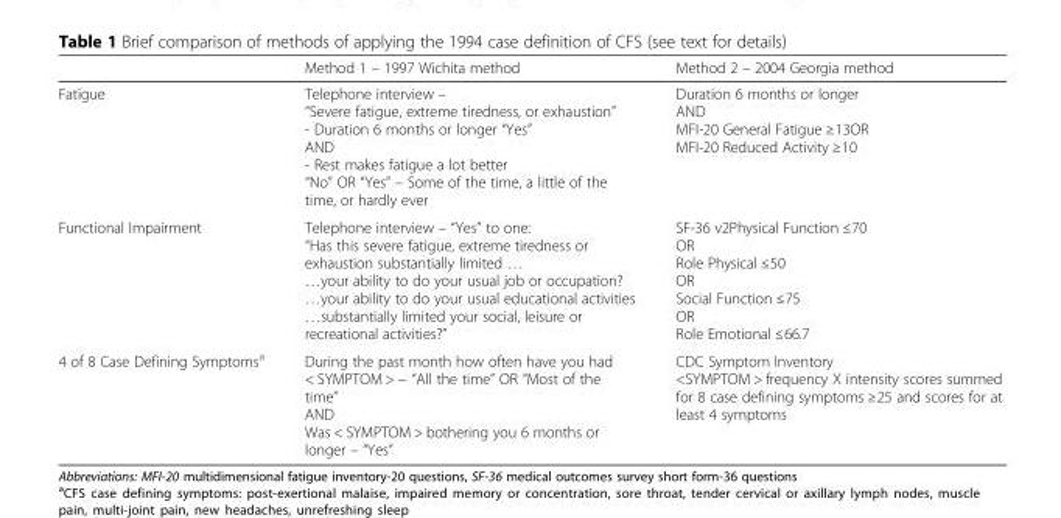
<table><thead><tr><td></td><td>Method 1 – 1997 Wichita method</td><td>Method 2 – 2004 Georgia method</td></tr></thead><tbody><tr><td>Fatigue</td><td>Telephone interview – “Severe fatigue, extreme tiredness, or exhaustion” - Duration 6 months or longer “Yes” AND - Rest makes fatigue a lot better “No” OR “Yes” – Some of the time, a little of the time, or hardly ever</td><td>Duration 6 months or longer AND MFI-20 General Fatigue ≥13OR MFI-20 Reduced Activity ≥10</td></tr><tr><td>Functional Impairment</td><td>Telephone interview – “Yes” to one: “Has this severe fatigue, extreme tiredness or exhaustion substantially limited … …your ability to do your usual job or occupation? …your ability to do your usual educational activities …substantially limited your social, leisure or recreational activities?”</td><td>SF-36 v2Physical Function ≤70 OR Role Physical ≤50 OR Social Function ≤75 OR Role Emotional ≤66.7</td></tr><tr><td>4 of 8 Case Defining Symptoms<sup>a</sup></td><td>During the past month how often have you had &lt; SYMPTOM &gt; − “All the time” OR “Most of the time” AND Was &lt; SYMPTOM &gt; bothering you 6 months or longer – “Yes”</td><td>CDC Symptom Inventory &lt;SYMPTOM &gt; frequency X intensity scores summed for 8 case defining symptoms ≥25 and scores for at least 4 symptoms</td></tr></tbody></table>